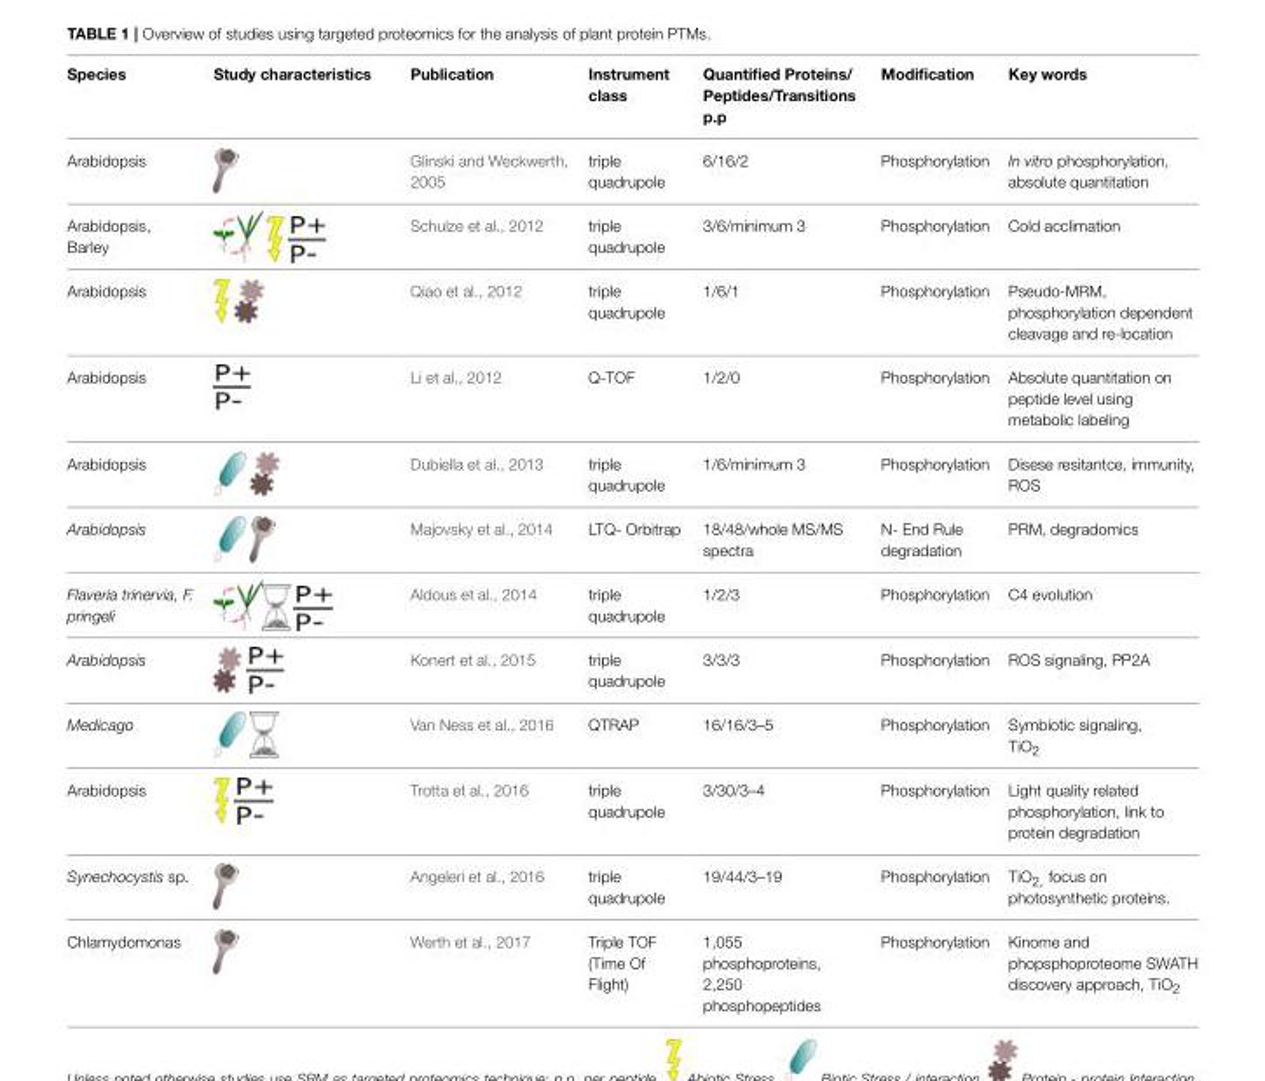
<table><thead><tr><td>Species</td><td>Study characteristics</td><td>Publication</td><td>Instrument class</td><td>Quantified Proteins/ Peptides/Transitions p.p</td><td>Modification</td><td>Key words</td></tr></thead><tbody><tr><td>Arabidopsis</td><td></td><td>Glinski and Weckwerth, 2005</td><td>triple quadrupole</td><td>6/16/2</td><td>Phosphorylation</td><td>In vitro phosphorylation, absolute quantitation</td></tr><tr><td>Arabidopsis, Barley</td><td></td><td>Schulze et al., 2012</td><td>triple quadrupole</td><td>3/6/minimum 3</td><td>Phosphorylation</td><td>Cold acclimation</td></tr><tr><td>Arabidopsis</td><td></td><td>Qiao et al., 2012</td><td>triple quadrupole</td><td>1/6/1</td><td>Phosphorylation</td><td>Pseudo-MRM, phosphorylation dependent cleavage and re-location</td></tr><tr><td>Arabidopsis</td><td></td><td>Li et al., 2012</td><td>Q-TOF</td><td>1/2/0</td><td>Phosphorylation</td><td>Absolute quantitation on peptide level using metabolic labeling</td></tr><tr><td>Arabidopsis</td><td></td><td>Dubiella et al., 2013</td><td>triple quadrupole</td><td>1/6/minimum 3</td><td>Phosphorylation</td><td>Disese resitantce, immunity, ROS</td></tr><tr><td>Arabidopsis</td><td></td><td>Majovsky et al., 2014</td><td>LTQ- Orbitrap</td><td>18/48/whole MS/MS spectra</td><td>N- End Rule degradation</td><td>PRM, degradomics</td></tr><tr><td>Flaveria trinervia, F. pringeli</td><td></td><td>Aldous et al., 2014</td><td>triple quadrupole</td><td>1/2/3</td><td>Phosphorylation</td><td>C4 evolution</td></tr><tr><td>Arabidopsis</td><td></td><td>Konert et al., 2015</td><td>triple quadrupole</td><td>3/3/3</td><td>Phosphorylation</td><td>ROS signaling, PP2A</td></tr><tr><td>Medicago</td><td></td><td>Van Ness et al., 2016</td><td>QTRAP</td><td>16/16/3–5</td><td>Phosphorylation</td><td>Symbiotic signaling, TiO<sub>2</sub></td></tr><tr><td>Arabidopsis</td><td></td><td>Trotta et al., 2016</td><td>triple quadrupole</td><td>3/30/3–4</td><td>Phosphorylation</td><td>Light quality related phosphorylation, link to protein degradation</td></tr><tr><td>Synechocystis sp.</td><td></td><td>Angeleri et al., 2016</td><td>triple quadrupole</td><td>19/44/3–19</td><td>Phosphorylation</td><td>TiO<sub>2</sub>, focus on photosynthetic proteins.</td></tr><tr><td>Chlamydomonas</td><td></td><td>Werth et al., 2017</td><td>Triple TOF (Time Of Flight)</td><td>1,055 phosphoproteins, 2,250 phosphopeptides</td><td>Phosphorylation</td><td>Kinome and phopsphoproteome SWATH discovery approach, TiO<sub>2</sub></td></tr></tbody></table>